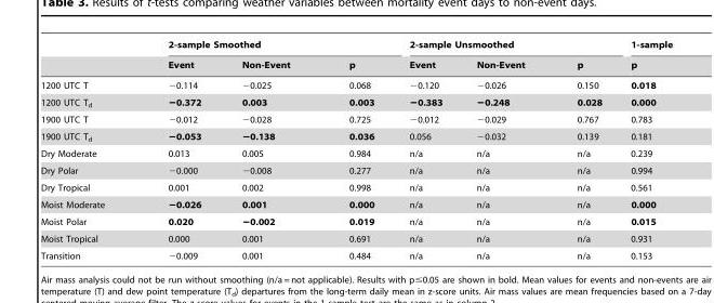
<table><thead><tr><td rowspan="2"></td><td colspan="3">2-sample Smoothed</td><td colspan="3">2-sample Unsmoothed</td><td rowspan="2">1-sample p</td></tr><tr><td>Event</td><td>Non-Event</td><td>p</td><td>Event</td><td>Non-Event</td><td>p</td></tr></thead><tbody><tr><td>1200 UTC T</td><td>−0.114</td><td>−0.025</td><td>0.068</td><td>−0.120</td><td>−0.026</td><td>0.150</td><td>0.018</td></tr><tr><td>1200 UTC T<sub>d</sub></td><td>−0.372</td><td>0.003</td><td>0.003</td><td>−0.383</td><td>−0.248</td><td>0.028</td><td>0.000</td></tr><tr><td>1900 UTC T</td><td>−0.012</td><td>−0.028</td><td>0.725</td><td>−0.012</td><td>−0.029</td><td>0.767</td><td>0.783</td></tr><tr><td>1900 UTC T<sub>d</sub></td><td>−0.053</td><td>−0.138</td><td>0.036</td><td>0.056</td><td>−0.032</td><td>0.139</td><td>0.181</td></tr><tr><td>Dry Moderate</td><td>0.013</td><td>0.005</td><td>0.984</td><td>n/a</td><td>n/a</td><td>n/a</td><td>0.239</td></tr><tr><td>Dry Polar</td><td>−0.000</td><td>−0.008</td><td>0.277</td><td>n/a</td><td>n/a</td><td>n/a</td><td>0.994</td></tr><tr><td>Dry Tropical</td><td>0.001</td><td>0.002</td><td>0.998</td><td>n/a</td><td>n/a</td><td>n/a</td><td>0.561</td></tr><tr><td>Moist Moderate</td><td>−0.026</td><td>0.001</td><td>0.000</td><td>n/a</td><td>n/a</td><td>n/a</td><td>0.000</td></tr><tr><td>Moist Polar</td><td>0.020</td><td>−0.002</td><td>0.019</td><td>n/a</td><td>n/a</td><td>n/a</td><td>0.015</td></tr><tr><td>Moist Tropical</td><td>0.000</td><td>0.001</td><td>0.691</td><td>n/a</td><td>n/a</td><td>n/a</td><td>0.931</td></tr><tr><td>Transition</td><td>−0.009</td><td>0.001</td><td>0.484</td><td>n/a</td><td>n/a</td><td>n/a</td><td>0.153</td></tr></tbody></table>